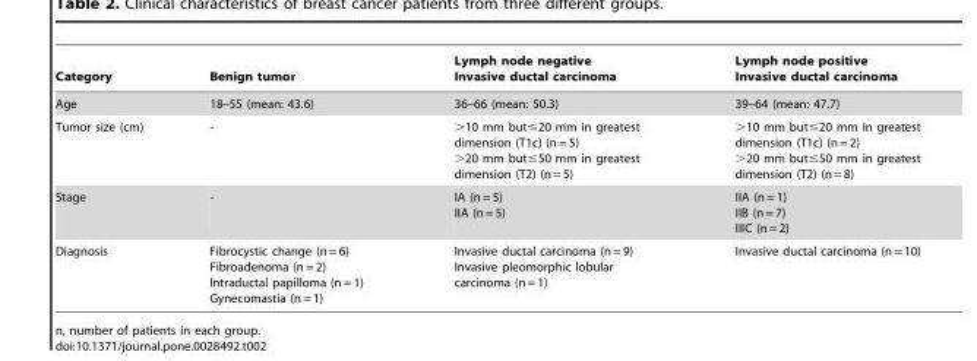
<table><thead><tr><td>Category</td><td>Benign tumor</td><td>Lymph node negative Invasive ductal carcinoma</td><td>Lymph node positive Invasive ductal carcinoma</td></tr></thead><tbody><tr><td>Age</td><td>18–55 (mean: 43.6)</td><td>36–66 (mean: 50.3)</td><td>39–64 (mean: 47.7)</td></tr><tr><td>Tumor size (cm)</td><td>-</td><td>&gt;10 mm but≤20 mm in greatest dimension (T1c) (n = 5) &gt;20 mm but≤50 mm in greatest dimension (T2) (n = 5)</td><td>&gt;10 mm but≤20 mm in greatest dimension (T1c) (n = 2) &gt;20 mm but≤50 mm in greatest dimension (T2) (n = 8)</td></tr><tr><td>Stage</td><td>-</td><td>IA (n = 5) IIA (n = 5)</td><td>IIA (n = 1) IIB (n = 7) IIIC (n = 2)</td></tr><tr><td>Diagnosis</td><td>Fibrocystic change (n = 6) Fibroadenoma (n = 2) Intraductal papilloma (n = 1) Gynecomastia (n = 1)</td><td>Invasive ductal carcinoma (n = 9) Invasive pleomorphic lobular carcinoma (n = 1)</td><td>Invasive ductal carcinoma (n = 10)</td></tr></tbody></table>